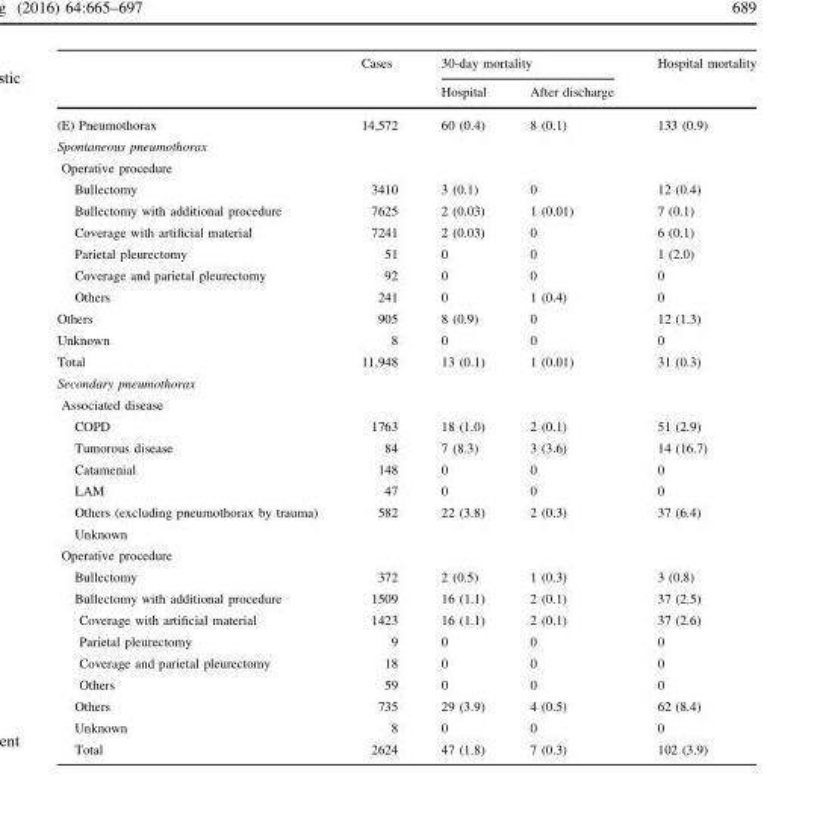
<table><thead><tr><td rowspan="2"></td><td rowspan="2">Cases</td><td colspan="2">30-day mortality</td><td rowspan="2">Hospital mortality</td></tr><tr><td>Hospital</td><td>After discharge</td></tr></thead><tbody><tr><td>(E) Pneumothorax</td><td>14,572</td><td>60 (0.4)</td><td>8 (0.1)</td><td>133 (0.9)</td></tr><tr><td colspan="5">Spontaneous pneumothorax</td></tr><tr><td colspan="5">Operative procedure</td></tr><tr><td>Bullectomy</td><td>3410</td><td>3 (0.1)</td><td>0</td><td>12 (0.4)</td></tr><tr><td>Bullectomy with additional procedure</td><td>7625</td><td>2 (0.03)</td><td>1 (0.01)</td><td>7 (0.1)</td></tr><tr><td>Coverage with artificial material</td><td>7241</td><td>2 (0.03)</td><td>0</td><td>6 (0.1)</td></tr><tr><td>Parietal pleurectomy</td><td>51</td><td>0</td><td>0</td><td>1 (2.0)</td></tr><tr><td>Coverage and parietal pleurectomy</td><td>92</td><td>0</td><td>0</td><td>0</td></tr><tr><td>Others</td><td>241</td><td>0</td><td>1 (0.4)</td><td>0</td></tr><tr><td>Others</td><td>905</td><td>8 (0.9)</td><td>0</td><td>12 (1.3)</td></tr><tr><td>Unknown</td><td>8</td><td>0</td><td>0</td><td>0</td></tr><tr><td>Total</td><td>11,948</td><td>13 (0.1)</td><td>1 (0.01)</td><td>31 (0.3)</td></tr><tr><td colspan="5">Secondary pneumothorax</td></tr><tr><td colspan="5">Associated disease</td></tr><tr><td>COPD</td><td>1763</td><td>18 (1.0)</td><td>2 (0.1)</td><td>51 (2.9)</td></tr><tr><td>Tumorous disease</td><td>84</td><td>7 (8.3)</td><td>3 (3.6)</td><td>14 (16.7)</td></tr><tr><td>Catamenial</td><td>148</td><td>0</td><td>0</td><td>0</td></tr><tr><td>LAM</td><td>47</td><td>0</td><td>0</td><td>0</td></tr><tr><td>Others (excluding pneumothorax by trauma)</td><td>582</td><td>22 (3.8)</td><td>2 (0.3)</td><td>37 (6.4)</td></tr><tr><td colspan="5">Unknown</td></tr><tr><td colspan="5">Operative procedure</td></tr><tr><td>Bullectomy</td><td>372</td><td>2 (0.5)</td><td>1 (0.3)</td><td>3 (0.8)</td></tr><tr><td>Bullectomy with additional procedure</td><td>1509</td><td>16 (1.1)</td><td>2 (0.1)</td><td>37 (2.5)</td></tr><tr><td>Coverage with artificial material</td><td>1423</td><td>16 (1.1)</td><td>2 (0.1)</td><td>37 (2.6)</td></tr><tr><td>Parietal pleurectomy</td><td>9</td><td>0</td><td>0</td><td>0</td></tr><tr><td>Coverage and parietal pleurectomy</td><td>18</td><td>0</td><td>0</td><td>0</td></tr><tr><td>Others</td><td>59</td><td>0</td><td>0</td><td>0</td></tr><tr><td>Others</td><td>735</td><td>29 (3.9)</td><td>4 (0.5)</td><td>62 (8.4)</td></tr><tr><td>Unknown</td><td>8</td><td>0</td><td>0</td><td>0</td></tr><tr><td>Total</td><td>2624</td><td>47 (1.8)</td><td>7 (0.3)</td><td>102 (3.9)</td></tr></tbody></table>